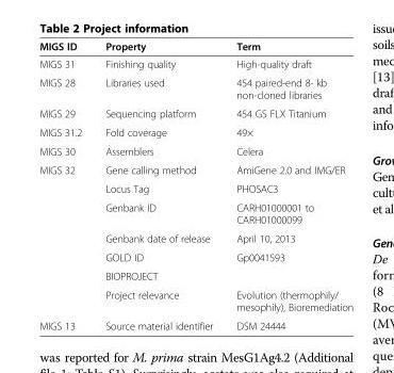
<table><thead><tr><td>MIGS ID</td><td>Property</td><td>Term</td></tr></thead><tbody><tr><td>MIGS 31</td><td>Finishing quality</td><td>High-quality draft</td></tr><tr><td>MIGS 28</td><td>Libraries used</td><td>454 paired-end 8- kb non-cloned libraries</td></tr><tr><td>MIGS 29</td><td>Sequencing platform</td><td>454 GS FLX Titanium</td></tr><tr><td>MIGS 31.2</td><td>Fold coverage</td><td>49×</td></tr><tr><td>MIGS 30</td><td>Assemblers</td><td>Celera</td></tr><tr><td rowspan="7">MIGS 32</td><td>Gene calling method</td><td>AmiGene 2.0 and IMG/ER</td></tr><tr><td>Locus Tag</td><td>PHOSAC3</td></tr><tr><td>Genbank ID</td><td>CARH01000001 to CARH01000099</td></tr><tr><td>Genbank date of release</td><td>April 10, 2013</td></tr><tr><td>GOLD ID</td><td>Gp0041593</td></tr><tr><td>BIOPROJECT</td><td></td></tr><tr><td>Project relevance</td><td>Evolution (thermophily/ mesophily), Bioremediation</td></tr><tr><td>MIGS 13</td><td>Source material identifier</td><td>DSM 24444</td></tr></tbody></table>